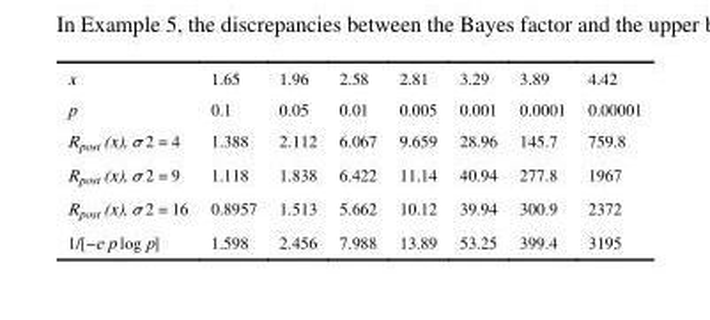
<table><tbody><tr><td>x</td><td>1.65</td><td>1.96</td><td>2.58</td><td>2.81</td><td>3.29</td><td>3.89</td><td>4.42</td></tr><tr><td>p</td><td>0.1</td><td>0.05</td><td>0.01</td><td>0.005</td><td>0.001</td><td>0.0001</td><td>0.00001</td></tr><tr><td>R<sub>post</sub> (x), σ 2 = 4</td><td>1.388</td><td>2.112</td><td>6.067</td><td>9.659</td><td>28.96</td><td>145.7</td><td>759.8</td></tr><tr><td>R<sub>post</sub> (x), σ 2 = 9</td><td>1.118</td><td>1.838</td><td>6.422</td><td>11.14</td><td>40.94</td><td>277.8</td><td>1967</td></tr><tr><td>R<sub>post</sub> (x), σ 2 = 16</td><td>0.8957</td><td>1.513</td><td>5.662</td><td>10.12</td><td>39.94</td><td>300.9</td><td>2372</td></tr><tr><td>1/[−e p log p]</td><td>1.598</td><td>2.456</td><td>7.988</td><td>13.89</td><td>53.25</td><td>399.4</td><td>3195</td></tr></tbody></table>